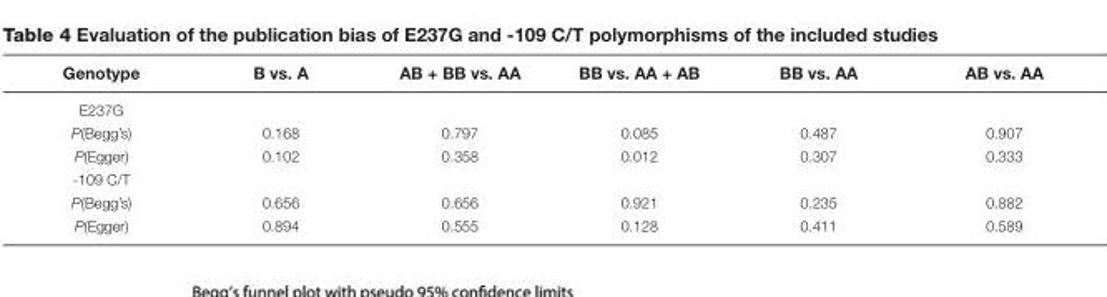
<table><thead><tr><td>Genotype</td><td>B vs. A</td><td>AB + BB vs. AA</td><td>BB vs. AA + AB</td><td>BB vs. AA</td><td>AB vs. AA</td></tr></thead><tbody><tr><td colspan="6">E237G</td></tr><tr><td>P(Begg’s)</td><td>0.168</td><td>0.797</td><td>0.085</td><td>0.487</td><td>0.907</td></tr><tr><td>P(Egger)</td><td>0.102</td><td>0.358</td><td>0.012</td><td>0.307</td><td>0.333</td></tr><tr><td colspan="6">-109 C/T</td></tr><tr><td>P(Begg’s)</td><td>0.656</td><td>0.656</td><td>0.921</td><td>0.235</td><td>0.882</td></tr><tr><td>P(Egger)</td><td>0.894</td><td>0.555</td><td>0.128</td><td>0.411</td><td>0.589</td></tr></tbody></table>